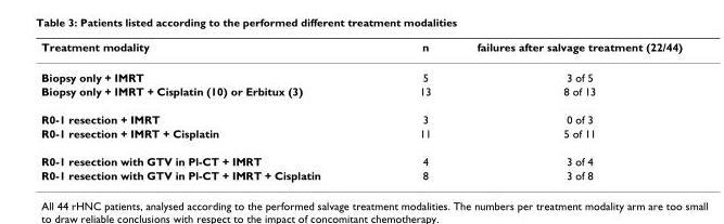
<table><thead><tr><td>Treatment modality</td><td>n</td><td>failures after salvage treatment (22/44)</td></tr></thead><tbody><tr><td>Biopsy only + IMRT</td><td>5</td><td>3 of 5</td></tr><tr><td>Biopsy only + IMRT + Cisplatin (10) or Erbitux (3)</td><td>13</td><td>8 of 13</td></tr><tr><td>R0-1 resection + IMRT</td><td>3</td><td>0 of 3</td></tr><tr><td>R0-1 resection + IMRT + Cisplatin</td><td>11</td><td>5 of 11</td></tr><tr><td>R0-1 resection with GTV in Pl-CT + IMRT</td><td>4</td><td>3 of 4</td></tr><tr><td>R0-1 resection with GTV in Pl-CT + IMRT + Cisplatin</td><td>8</td><td>3 of 8</td></tr></tbody></table>